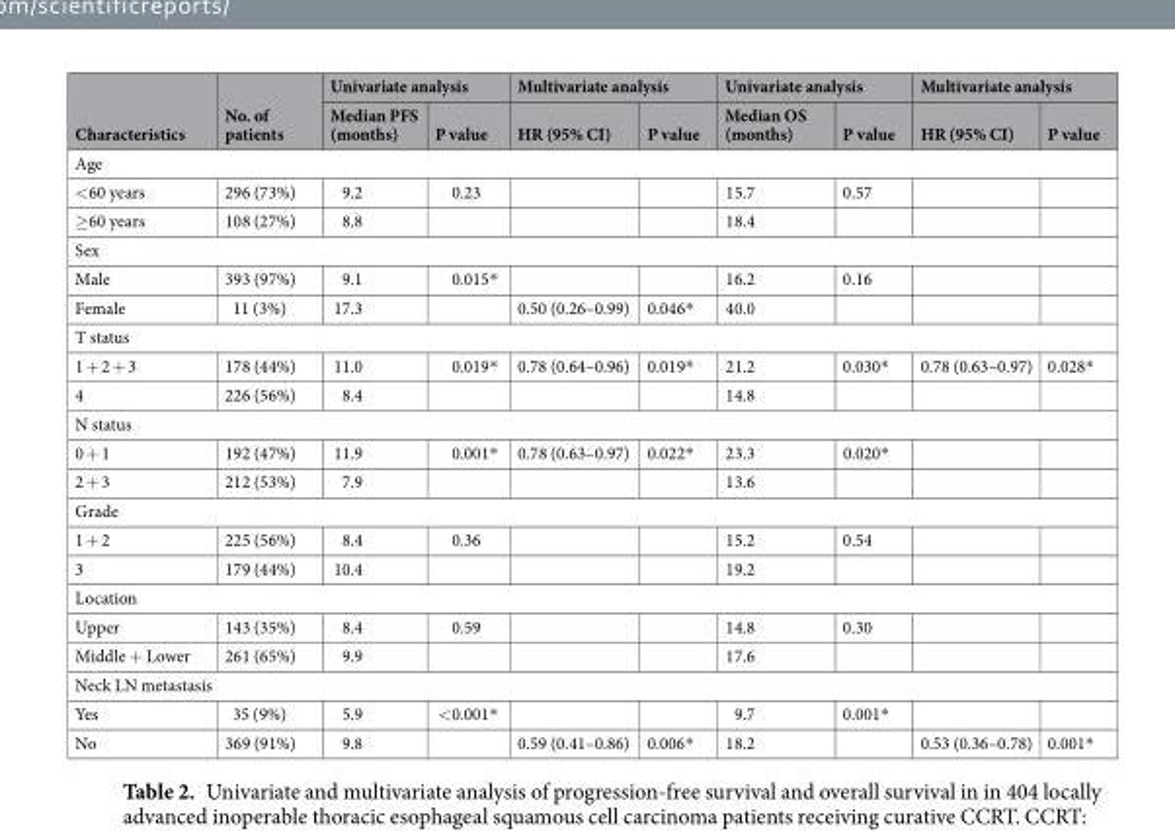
<table><thead><tr><td rowspan="2">Characteristics</td><td rowspan="2">No. of patients</td><td colspan="2">Univariate analysis</td><td colspan="2">Multivariate analysis</td><td colspan="2">Univariate analysis</td><td colspan="2">Multivariate analysis</td></tr><tr><td>Median PFS (months)</td><td>P value</td><td>HR (95% CI)</td><td>P value</td><td>Median OS (months)</td><td>P value</td><td>HR (95% CI)</td><td>P value</td></tr></thead><tbody><tr><td colspan="10">Age</td></tr><tr><td>&lt;60 years</td><td>296 (73%)</td><td>9.2</td><td>0.23</td><td></td><td></td><td>15.7</td><td>0.57</td><td></td><td></td></tr><tr><td>≥60 years</td><td>108 (27%)</td><td>8.8</td><td></td><td></td><td></td><td>18.4</td><td></td><td></td><td></td></tr><tr><td colspan="10">Sex</td></tr><tr><td>Male</td><td>393 (97%)</td><td>9.1</td><td>0.015*</td><td></td><td></td><td>16.2</td><td>0.16</td><td></td><td></td></tr><tr><td>Female</td><td>11 (3%)</td><td>17.3</td><td></td><td>0.50 (0.26–0.99)</td><td>0.046*</td><td>40.0</td><td></td><td></td><td></td></tr><tr><td colspan="10">T status</td></tr><tr><td>1 + 2 + 3</td><td>178 (44%)</td><td>11.0</td><td>0.019*</td><td>0.78 (0.64–0.96)</td><td>0.019*</td><td>21.2</td><td>0.030*</td><td>0.78 (0.63–0.97)</td><td>0.028*</td></tr><tr><td>4</td><td>226 (56%)</td><td>8.4</td><td></td><td></td><td></td><td>14.8</td><td></td><td></td><td></td></tr><tr><td colspan="10">N status</td></tr><tr><td>0 + 1</td><td>192 (47%)</td><td>11.9</td><td>0.001*</td><td>0.78 (0.63–0.97)</td><td>0.022*</td><td>23.3</td><td>0.020*</td><td></td><td></td></tr><tr><td>2 + 3</td><td>212 (53%)</td><td>7.9</td><td></td><td></td><td></td><td>13.6</td><td></td><td></td><td></td></tr><tr><td colspan="10">Grade</td></tr><tr><td>1 + 2</td><td>225 (56%)</td><td>8.4</td><td>0.36</td><td></td><td></td><td>15.2</td><td>0.54</td><td></td><td></td></tr><tr><td>3</td><td>179 (44%)</td><td>10.4</td><td></td><td></td><td></td><td>19.2</td><td></td><td></td><td></td></tr><tr><td colspan="10">Location</td></tr><tr><td>Upper</td><td>143 (35%)</td><td>8.4</td><td>0.59</td><td></td><td></td><td>14.8</td><td>0.30</td><td></td><td></td></tr><tr><td>Middle + Lower</td><td>261 (65%)</td><td>9.9</td><td></td><td></td><td></td><td>17.6</td><td></td><td></td><td></td></tr><tr><td colspan="10">Neck LN metastasis</td></tr><tr><td>Yes</td><td>35 (9%)</td><td>5.9</td><td>&lt;0.001*</td><td></td><td></td><td>9.7</td><td>0.001*</td><td></td><td></td></tr><tr><td>No</td><td>369 (91%)</td><td>9.8</td><td></td><td>0.59 (0.41–0.86)</td><td>0.006*</td><td>18.2</td><td></td><td>0.53 (0.36–0.78)</td><td>0.001*</td></tr></tbody></table>